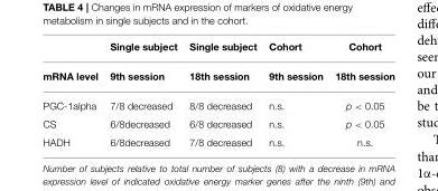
<table><thead><tr><td rowspan="2">mRNA level</td><td rowspan="2">Single subject 9th session</td><td rowspan="2">Single subject 18th session</td><td rowspan="2">Cohort 9th session</td><td rowspan="2">Cohort 18th session</td></tr><tr></tr></thead><tbody><tr><td>PGC-1alpha</td><td>7/8 decreased</td><td>8/8 decreased</td><td>n.s.</td><td>p &lt; 0.05</td></tr><tr><td>CS</td><td>6/8decreased</td><td>6/8 decreased</td><td>n.s.</td><td>p &lt; 0.05</td></tr><tr><td>HADH</td><td>6/8decreased</td><td>7/8 decreased</td><td>n.s.</td><td>n.s.</td></tr></tbody></table>